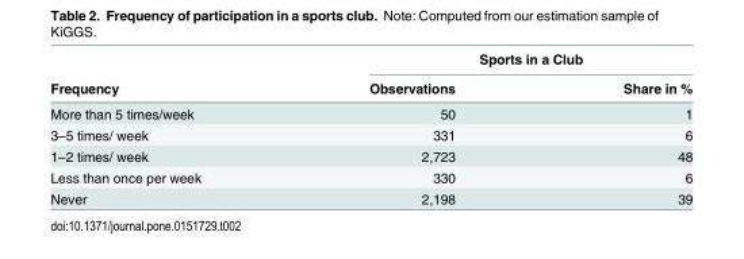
<table><thead><tr><td rowspan="2">Frequency</td><td colspan="2">Sports in a Club</td></tr><tr><td>Observations</td><td>Share in %</td></tr></thead><tbody><tr><td>More than 5 times/week</td><td>50</td><td>1</td></tr><tr><td>3–5 times/ week</td><td>331</td><td>6</td></tr><tr><td>1–2 times/ week</td><td>2,723</td><td>48</td></tr><tr><td>Less than once per week</td><td>330</td><td>6</td></tr><tr><td>Never</td><td>2,198</td><td>39</td></tr></tbody></table>